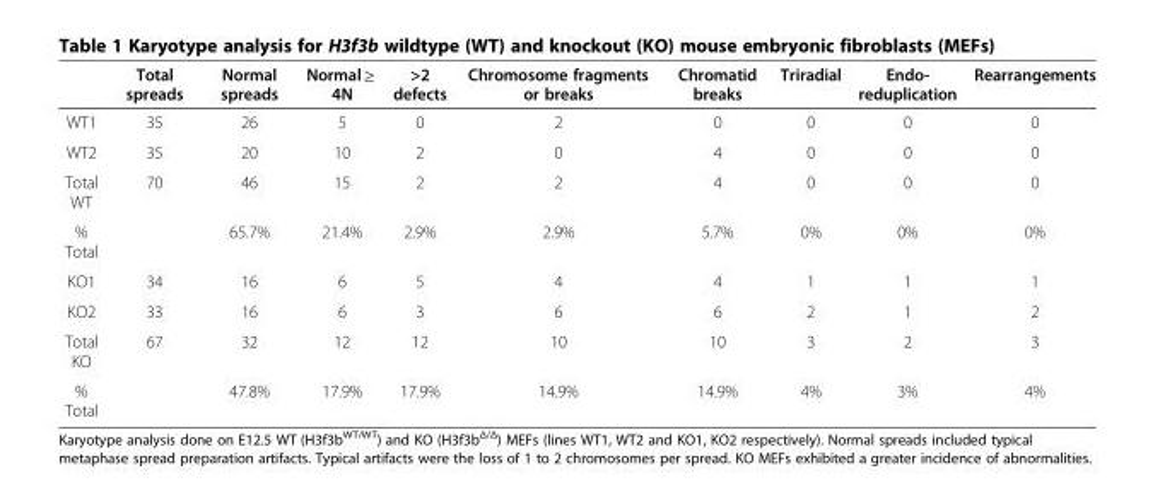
<table><thead><tr><td></td><td>Total spreads</td><td>Normal spreads</td><td>Normal ≥ 4N</td><td>&gt;2 defects</td><td>Chromosome fragments or breaks</td><td>Chromatid breaks</td><td>Triradial</td><td>Endo- reduplication</td><td>Rearrangements</td></tr></thead><tbody><tr><td>WT1</td><td>35</td><td>26</td><td>5</td><td>0</td><td>2</td><td>0</td><td>0</td><td>0</td><td>0</td></tr><tr><td>WT2</td><td>35</td><td>20</td><td>10</td><td>2</td><td>0</td><td>4</td><td>0</td><td>0</td><td>0</td></tr><tr><td>Total WT</td><td>70</td><td>46</td><td>15</td><td>2</td><td>2</td><td>4</td><td>0</td><td>0</td><td>0</td></tr><tr><td>% Total</td><td></td><td>65.7%</td><td>21.4%</td><td>2.9%</td><td>2.9%</td><td>5.7%</td><td>0%</td><td>0%</td><td>0%</td></tr><tr><td>KO1</td><td>34</td><td>16</td><td>6</td><td>5</td><td>4</td><td>4</td><td>1</td><td>1</td><td>1</td></tr><tr><td>KO2</td><td>33</td><td>16</td><td>6</td><td>3</td><td>6</td><td>6</td><td>2</td><td>1</td><td>2</td></tr><tr><td>Total KO</td><td>67</td><td>32</td><td>12</td><td>12</td><td>10</td><td>10</td><td>3</td><td>2</td><td>3</td></tr><tr><td>% Total</td><td></td><td>47.8%</td><td>17.9%</td><td>17.9%</td><td>14.9%</td><td>14.9%</td><td>4%</td><td>3%</td><td>4%</td></tr></tbody></table>